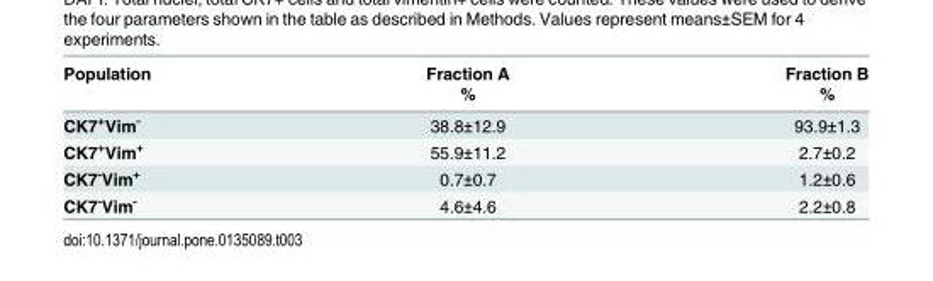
<table><thead><tr><td rowspan="2">Population</td><td rowspan="2">Fraction A %</td><td rowspan="2">Fraction B %</td></tr><tr></tr></thead><tbody><tr><td>CK7<sup>+</sup>Vim<sup>-</sup></td><td>38.8±12.9</td><td>93.9±1.3</td></tr><tr><td>CK7<sup>+</sup>Vim<sup>+</sup></td><td>55.9±11.2</td><td>2.7±0.2</td></tr><tr><td>CK7<sup>-</sup>Vim<sup>+</sup></td><td>0.7±0.7</td><td>1.2±0.6</td></tr><tr><td>CK7<sup>-</sup>Vim<sup>-</sup></td><td>4.6±4.6</td><td>2.2±0.8</td></tr></tbody></table>